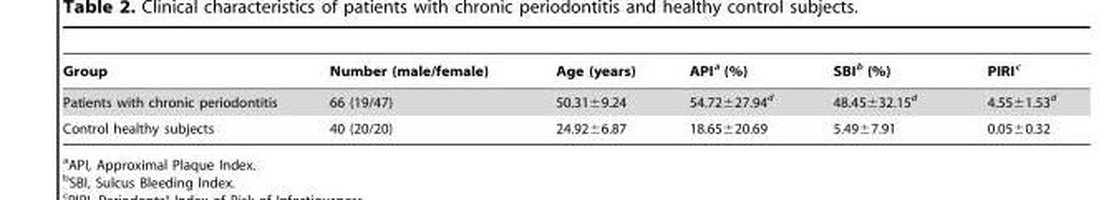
<table><thead><tr><td>Group</td><td>Number (male/female)</td><td>Age (years)</td><td>API<sup>a</sup> (%)</td><td>SBI<sup>b</sup> (%)</td><td>PIRI<sup>c</sup></td></tr></thead><tbody><tr><td>Patients with chronic periodontitis</td><td>66 (19/47)</td><td>50.31±9.24</td><td>54.72±27.94<sup>d</sup></td><td>48.45±32.15<sup>d</sup></td><td>4.55±1.53<sup>d</sup></td></tr><tr><td>Control healthy subjects</td><td>40 (20/20)</td><td>24.92±6.87</td><td>18.65±20.69</td><td>5.49±7.91</td><td>0.05±0.32</td></tr></tbody></table>